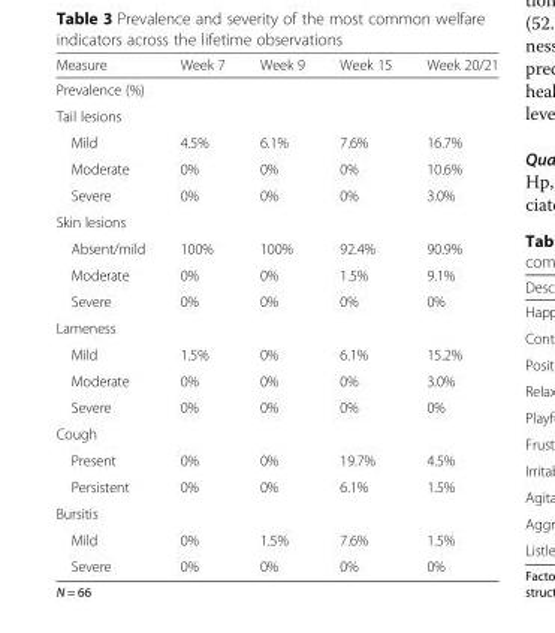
<table><thead><tr><td>Measure</td><td>Week 7</td><td>Week 9</td><td>Week 15</td><td>Week 20/21</td></tr></thead><tbody><tr><td colspan="5">Prevalence (%)</td></tr><tr><td colspan="5">Tail lesions</td></tr><tr><td>Mild</td><td>4.5%</td><td>6.1%</td><td>7.6%</td><td>16.7%</td></tr><tr><td>Moderate</td><td>0%</td><td>0%</td><td>0%</td><td>10.6%</td></tr><tr><td>Severe</td><td>0%</td><td>0%</td><td>0%</td><td>3.0%</td></tr><tr><td colspan="5">Skin lesions</td></tr><tr><td>Absent/mild</td><td>100%</td><td>100%</td><td>92.4%</td><td>90.9%</td></tr><tr><td>Moderate</td><td>0%</td><td>0%</td><td>1.5%</td><td>9.1%</td></tr><tr><td>Severe</td><td>0%</td><td>0%</td><td>0%</td><td>0%</td></tr><tr><td colspan="5">Lameness</td></tr><tr><td>Mild</td><td>1.5%</td><td>0%</td><td>6.1%</td><td>15.2%</td></tr><tr><td>Moderate</td><td>0%</td><td>0%</td><td>0%</td><td>3.0%</td></tr><tr><td>Severe</td><td>0%</td><td>0%</td><td>0%</td><td>0%</td></tr><tr><td colspan="5">Cough</td></tr><tr><td>Present</td><td>0%</td><td>0%</td><td>19.7%</td><td>4.5%</td></tr><tr><td>Persistent</td><td>0%</td><td>0%</td><td>6.1%</td><td>1.5%</td></tr><tr><td colspan="5">Bursitis</td></tr><tr><td>Mild</td><td>0%</td><td>1.5%</td><td>7.6%</td><td>1.5%</td></tr><tr><td>Severe</td><td>0%</td><td>0%</td><td>0%</td><td>0%</td></tr></tbody></table>